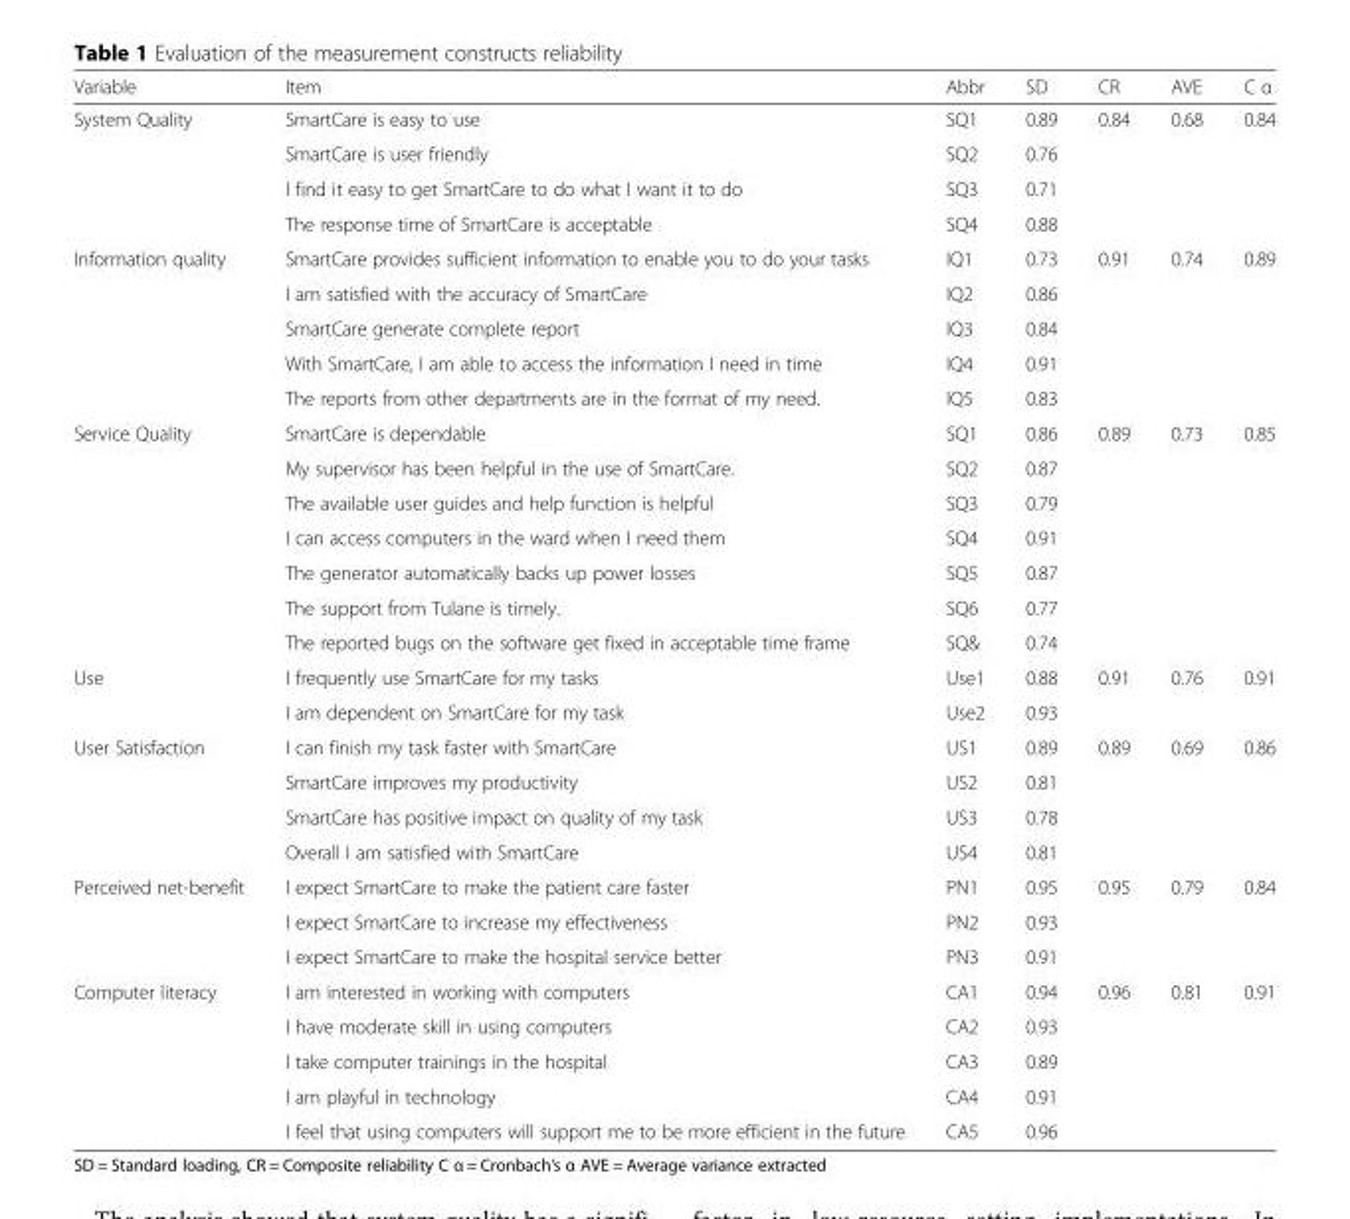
<table><thead><tr><td>Variable</td><td>Item</td><td>Abbr</td><td>SD</td><td>CR</td><td>AVE</td><td>C α</td></tr></thead><tbody><tr><td rowspan="4">System Quality</td><td>SmartCare is easy to use</td><td>SQ1</td><td>0.89</td><td rowspan="4">0.84</td><td rowspan="4">0.68</td><td rowspan="4">0.84</td></tr><tr><td>SmartCare is user friendly</td><td>SQ2</td><td>0.76</td></tr><tr><td>I find it easy to get SmartCare to do what I want it to do</td><td>SQ3</td><td>0.71</td></tr><tr><td>The response time of SmartCare is acceptable</td><td>SQ4</td><td>0.88</td></tr><tr><td rowspan="5">Information quality</td><td>SmartCare provides sufficient information to enable you to do your tasks</td><td>IQ1</td><td>0.73</td><td rowspan="5">0.91</td><td rowspan="5">0.74</td><td rowspan="5">0.89</td></tr><tr><td>I am satisfied with the accuracy of SmartCare</td><td>IQ2</td><td>0.86</td></tr><tr><td>SmartCare generate complete report</td><td>IQ3</td><td>0.84</td></tr><tr><td>With SmartCare, I am able to access the information I need in time</td><td>IQ4</td><td>0.91</td></tr><tr><td>The reports from other departments are in the format of my need.</td><td>IQ5</td><td>0.83</td></tr><tr><td rowspan="7">Service Quality</td><td>SmartCare is dependable</td><td>SQ1</td><td>0.86</td><td rowspan="7">0.89</td><td rowspan="7">0.73</td><td rowspan="7">0.85</td></tr><tr><td>My supervisor has been helpful in the use of SmartCare.</td><td>SQ2</td><td>0.87</td></tr><tr><td>The available user guides and help function is helpful</td><td>SQ3</td><td>0.79</td></tr><tr><td>I can access computers in the ward when I need them</td><td>SQ4</td><td>0.91</td></tr><tr><td>The generator automatically backs up power losses</td><td>SQ5</td><td>0.87</td></tr><tr><td>The support from Tulane is timely.</td><td>SQ6</td><td>0.77</td></tr><tr><td>The reported bugs on the software get fixed in acceptable time frame</td><td>SQ&amp;</td><td>0.74</td></tr><tr><td rowspan="2">Use</td><td>I frequently use SmartCare for my tasks</td><td>Use1</td><td>0.88</td><td rowspan="2">0.91</td><td rowspan="2">0.76</td><td rowspan="2">0.91</td></tr><tr><td>I am dependent on SmartCare for my task</td><td>Use2</td><td>0.93</td></tr><tr><td rowspan="4">User Satisfaction</td><td>I can finish my task faster with SmartCare</td><td>US1</td><td>0.89</td><td rowspan="4">0.89</td><td rowspan="4">0.69</td><td rowspan="4">0.86</td></tr><tr><td>SmartCare improves my productivity</td><td>US2</td><td>0.81</td></tr><tr><td>SmartCare has positive impact on quality of my task</td><td>US3</td><td>0.78</td></tr><tr><td>Overall I am satisfied with SmartCare</td><td>US4</td><td>0.81</td></tr><tr><td rowspan="3">Perceived net-benefit</td><td>I expect SmartCare to make the patient care faster</td><td>PN1</td><td>0.95</td><td rowspan="3">0.95</td><td rowspan="3">0.79</td><td rowspan="3">0.84</td></tr><tr><td>I expect SmartCare to increase my effectiveness</td><td>PN2</td><td>0.93</td></tr><tr><td>I expect SmartCare to make the hospital service better</td><td>PN3</td><td>0.91</td></tr><tr><td rowspan="5">Computer literacy</td><td>I am interested in working with computers</td><td>CA1</td><td>0.94</td><td rowspan="5">0.96</td><td rowspan="5">0.81</td><td rowspan="5">0.91</td></tr><tr><td>I have moderate skill in using computers</td><td>CA2</td><td>0.93</td></tr><tr><td>I take computer trainings in the hospital</td><td>CA3</td><td>0.89</td></tr><tr><td>I am playful in technology</td><td>CA4</td><td>0.91</td></tr><tr><td>I feel that using computers will support me to be more efficient in the future</td><td>CA5</td><td>0.96</td></tr></tbody></table>